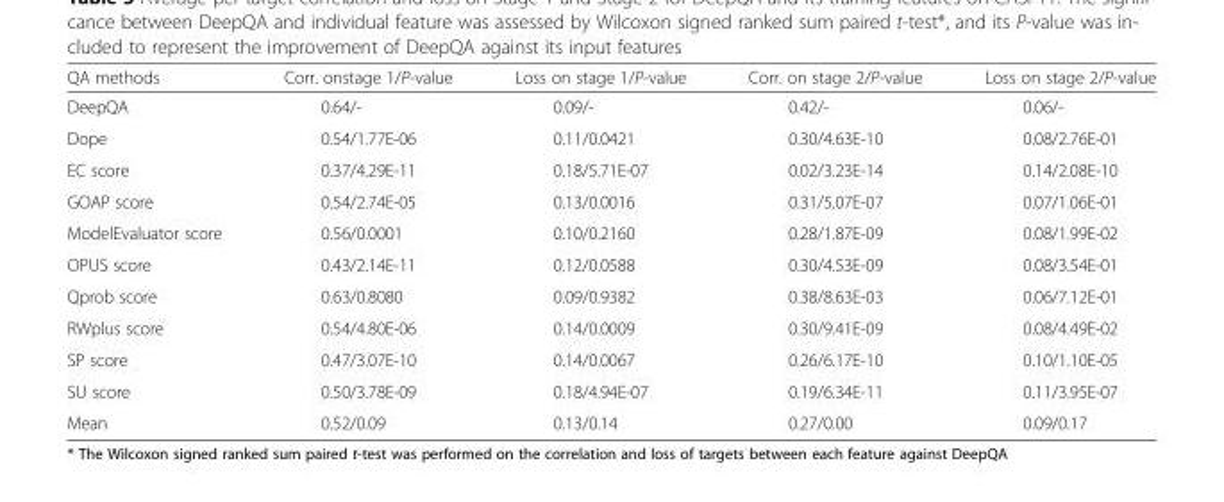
<table><thead><tr><td>QA methods</td><td>Corr. onstage 1/P-value</td><td>Loss on stage 1/P-value</td><td>Corr. on stage 2/P-value</td><td>Loss on stage 2/P-value</td></tr></thead><tbody><tr><td>DeepQA</td><td>0.64/-</td><td>0.09/-</td><td>0.42/-</td><td>0.06/-</td></tr><tr><td>Dope</td><td>0.54/1.77E-06</td><td>0.11/0.0421</td><td>0.30/4.63E-10</td><td>0.08/2.76E-01</td></tr><tr><td>EC score</td><td>0.37/4.29E-11</td><td>0.18/5.71E-07</td><td>0.02/3.23E-14</td><td>0.14/2.08E-10</td></tr><tr><td>GOAP score</td><td>0.54/2.74E-05</td><td>0.13/0.0016</td><td>0.31/5.07E-07</td><td>0.07/1.06E-01</td></tr><tr><td>ModelEvaluator score</td><td>0.56/0.0001</td><td>0.10/0.2160</td><td>0.28/1.87E-09</td><td>0.08/1.99E-02</td></tr><tr><td>OPUS score</td><td>0.43/2.14E-11</td><td>0.12/0.0588</td><td>0.30/4.53E-09</td><td>0.08/3.54E-01</td></tr><tr><td>Qprob score</td><td>0.63/0.8080</td><td>0.09/0.9382</td><td>0.38/8.63E-03</td><td>0.06/7.12E-01</td></tr><tr><td>RWplus score</td><td>0.54/4.80E-06</td><td>0.14/0.0009</td><td>0.30/9.41E-09</td><td>0.08/4.49E-02</td></tr><tr><td>SP score</td><td>0.47/3.07E-10</td><td>0.14/0.0067</td><td>0.26/6.17E-10</td><td>0.10/1.10E-05</td></tr><tr><td>SU score</td><td>0.50/3.78E-09</td><td>0.18/4.94E-07</td><td>0.19/6.34E-11</td><td>0.11/3.95E-07</td></tr><tr><td>Mean</td><td>0.52/0.09</td><td>0.13/0.14</td><td>0.27/0.00</td><td>0.09/0.17</td></tr></tbody></table>